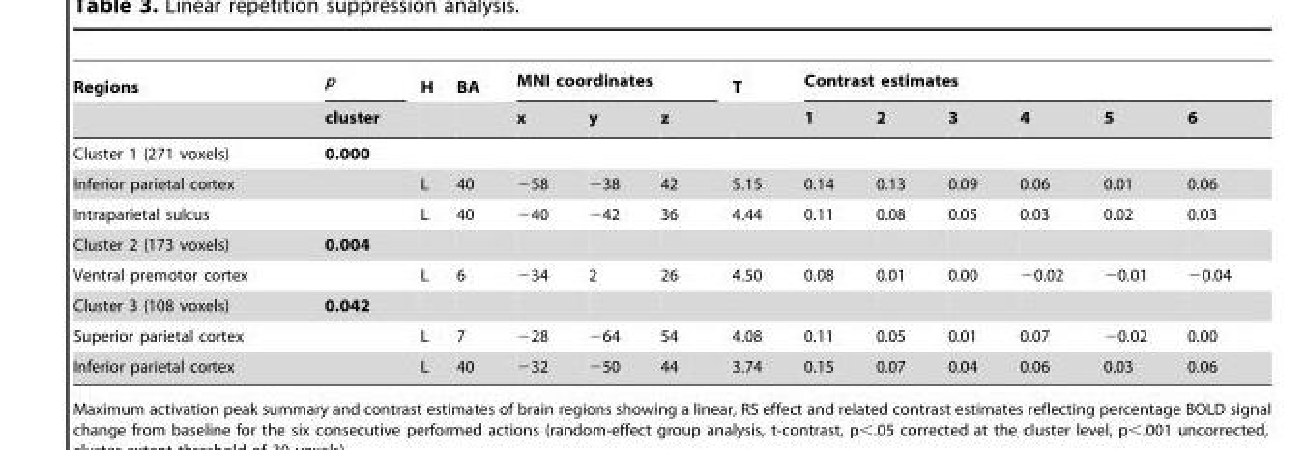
<table><thead><tr><td rowspan="2">Regions</td><td rowspan="2">p cluster</td><td rowspan="2">H</td><td rowspan="2">BA</td><td colspan="3">MNI coordinates</td><td rowspan="2">T</td><td colspan="6">Contrast estimates</td></tr><tr><td>x</td><td>y</td><td>z</td><td>1</td><td>2</td><td>3</td><td>4</td><td>5</td><td>6</td></tr></thead><tbody><tr><td>Cluster 1 (271 voxels)</td><td>0.000</td><td></td><td></td><td></td><td></td><td></td><td></td><td></td><td></td><td></td><td></td><td></td><td></td></tr><tr><td>Inferior parietal cortex</td><td></td><td>L</td><td>40</td><td>−58</td><td>−38</td><td>42</td><td>5.15</td><td>0.14</td><td>0.13</td><td>0.09</td><td>0.06</td><td>0.01</td><td>0.06</td></tr><tr><td>Intraparietal sulcus</td><td></td><td>L</td><td>40</td><td>−40</td><td>−42</td><td>36</td><td>4.44</td><td>0.11</td><td>0.08</td><td>0.05</td><td>0.03</td><td>0.02</td><td>0.03</td></tr><tr><td>Cluster 2 (173 voxels)</td><td>0.004</td><td></td><td></td><td></td><td></td><td></td><td></td><td></td><td></td><td></td><td></td><td></td><td></td></tr><tr><td>Ventral premotor cortex</td><td></td><td>L</td><td>6</td><td>−34</td><td>2</td><td>26</td><td>4.50</td><td>0.08</td><td>0.01</td><td>0.00</td><td>−0.02</td><td>−0.01</td><td>−0.04</td></tr><tr><td>Cluster 3 (108 voxels)</td><td>0.042</td><td></td><td></td><td></td><td></td><td></td><td></td><td></td><td></td><td></td><td></td><td></td><td></td></tr><tr><td>Superior parietal cortex</td><td></td><td>L</td><td>7</td><td>−28</td><td>−64</td><td>54</td><td>4.08</td><td>0.11</td><td>0.05</td><td>0.01</td><td>0.07</td><td>−0.02</td><td>0.00</td></tr><tr><td>Inferior parietal cortex</td><td></td><td>L</td><td>40</td><td>−32</td><td>−50</td><td>44</td><td>3.74</td><td>0.15</td><td>0.07</td><td>0.04</td><td>0.06</td><td>0.03</td><td>0.06</td></tr></tbody></table>